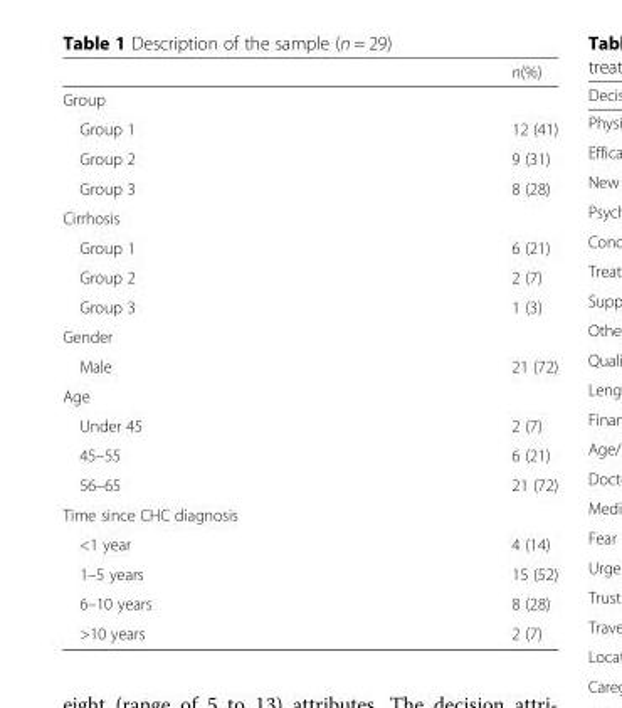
<table><thead><tr><td></td><td>n(%)</td></tr></thead><tbody><tr><td colspan="2">Group</td></tr><tr><td>Group 1</td><td>12 (41)</td></tr><tr><td>Group 2</td><td>9 (31)</td></tr><tr><td>Group 3</td><td>8 (28)</td></tr><tr><td colspan="2">Cirrhosis</td></tr><tr><td>Group 1</td><td>6 (21)</td></tr><tr><td>Group 2</td><td>2 (7)</td></tr><tr><td>Group 3</td><td>1 (3)</td></tr><tr><td colspan="2">Gender</td></tr><tr><td>Male</td><td>21 (72)</td></tr><tr><td colspan="2">Age</td></tr><tr><td>Under 45</td><td>2 (7)</td></tr><tr><td>45–55</td><td>6 (21)</td></tr><tr><td>56–65</td><td>21 (72)</td></tr><tr><td colspan="2">Time since CHC diagnosis</td></tr><tr><td>&lt;1 year</td><td>4 (14)</td></tr><tr><td>1–5 years</td><td>15 (52)</td></tr><tr><td>6–10 years</td><td>8 (28)</td></tr><tr><td>&gt;10 years</td><td>2 (7)</td></tr></tbody></table>